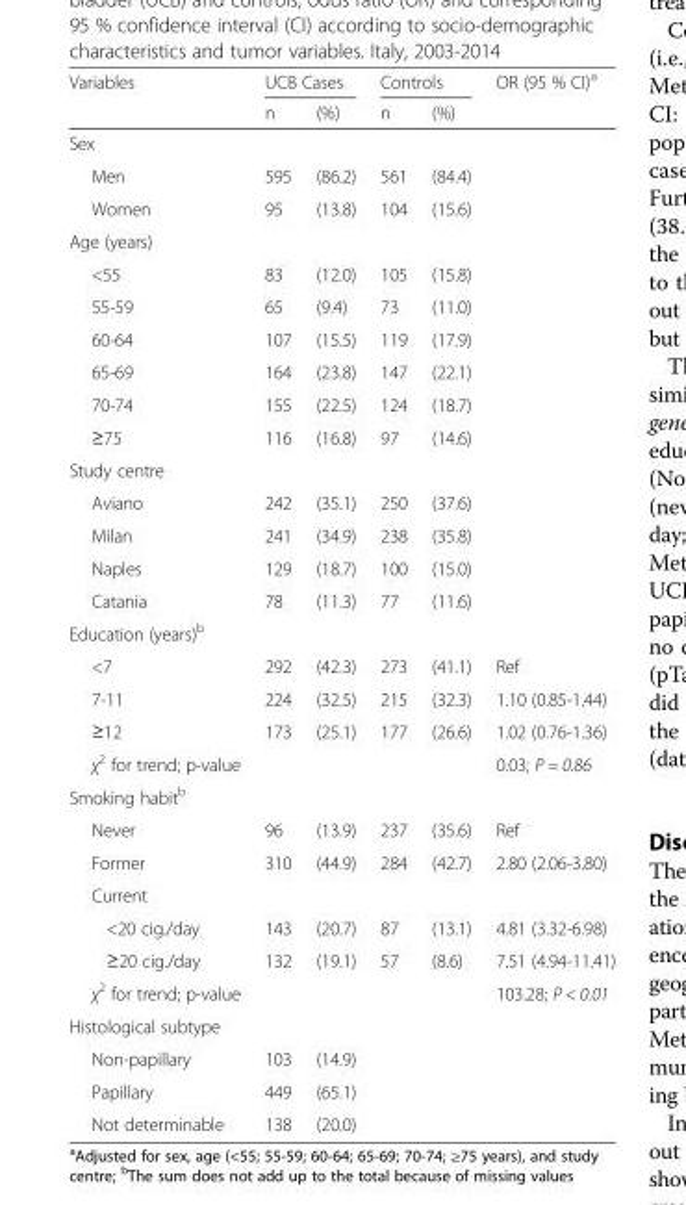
<table><thead><tr><td rowspan="2">Variables</td><td colspan="2">UCB Cases</td><td colspan="2">Controls</td><td rowspan="2">OR (95 % CI)<sup>a</sup></td></tr><tr><td>n</td><td>(%)</td><td>n</td><td>(%)</td></tr></thead><tbody><tr><td colspan="6">Sex</td></tr><tr><td>Men</td><td>595</td><td>(86.2)</td><td>561</td><td>(84.4)</td><td></td></tr><tr><td>Women</td><td>95</td><td>(13.8)</td><td>104</td><td>(15.6)</td><td></td></tr><tr><td colspan="6">Age (years)</td></tr><tr><td>&lt;55</td><td>83</td><td>(12.0)</td><td>105</td><td>(15.8)</td><td></td></tr><tr><td>55-59</td><td>65</td><td>(9.4)</td><td>73</td><td>(11.0)</td><td></td></tr><tr><td>60-64</td><td>107</td><td>(15.5)</td><td>119</td><td>(17.9)</td><td></td></tr><tr><td>65-69</td><td>164</td><td>(23.8)</td><td>147</td><td>(22.1)</td><td></td></tr><tr><td>70-74</td><td>155</td><td>(22.5)</td><td>124</td><td>(18.7)</td><td></td></tr><tr><td>≥75</td><td>116</td><td>(16.8)</td><td>97</td><td>(14.6)</td><td></td></tr><tr><td colspan="6">Study centre</td></tr><tr><td>Aviano</td><td>242</td><td>(35.1)</td><td>250</td><td>(37.6)</td><td></td></tr><tr><td>Milan</td><td>241</td><td>(34.9)</td><td>238</td><td>(35.8)</td><td></td></tr><tr><td>Naples</td><td>129</td><td>(18.7)</td><td>100</td><td>(15.0)</td><td></td></tr><tr><td>Catania</td><td>78</td><td>(11.3)</td><td>77</td><td>(11.6)</td><td></td></tr><tr><td colspan="6">Education (years)<sup>b</sup></td></tr><tr><td>&lt;7</td><td>292</td><td>(42.3)</td><td>273</td><td>(41.1)</td><td>Ref</td></tr><tr><td>7-11</td><td>224</td><td>(32.5)</td><td>215</td><td>(32.3)</td><td>1.10 (0.85-1.44)</td></tr><tr><td>≥12</td><td>173</td><td>(25.1)</td><td>177</td><td>(26.6)</td><td>1.02 (0.76-1.36)</td></tr><tr><td>χ<sup>2</sup> for trend; p-value</td><td></td><td></td><td></td><td></td><td>0.03; P = 0.86</td></tr><tr><td colspan="6">Smoking habit<sup>b</sup></td></tr><tr><td>Never</td><td>96</td><td>(13.9)</td><td>237</td><td>(35.6)</td><td>Ref</td></tr><tr><td>Former</td><td>310</td><td>(44.9)</td><td>284</td><td>(42.7)</td><td>2.80 (2.06-3.80)</td></tr><tr><td colspan="6">Current</td></tr><tr><td>&lt;20 cig./day</td><td>143</td><td>(20.7)</td><td>87</td><td>(13.1)</td><td>4.81 (3.32-6.98)</td></tr><tr><td>≥20 cig./day</td><td>132</td><td>(19.1)</td><td>57</td><td>(8.6)</td><td>7.51 (4.94-11.41)</td></tr><tr><td>χ<sup>2</sup> for trend; p-value</td><td></td><td></td><td></td><td></td><td>103.28; P &lt; 0.01</td></tr><tr><td colspan="6">Histological subtype</td></tr><tr><td>Non-papillary</td><td>103</td><td>(14.9)</td><td></td><td></td><td></td></tr><tr><td>Papillary</td><td>449</td><td>(65.1)</td><td></td><td></td><td></td></tr><tr><td>Not determinable</td><td>138</td><td>(20.0)</td><td></td><td></td><td></td></tr></tbody></table>